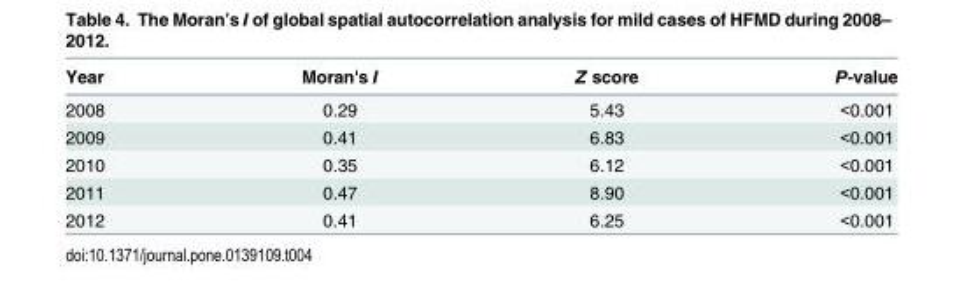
<table><thead><tr><td>Year</td><td>Moran&#x27;s I</td><td>Z score</td><td>P-value</td></tr></thead><tbody><tr><td>2008</td><td>0.29</td><td>5.43</td><td>&lt;0.001</td></tr><tr><td>2009</td><td>0.41</td><td>6.83</td><td>&lt;0.001</td></tr><tr><td>2010</td><td>0.35</td><td>6.12</td><td>&lt;0.001</td></tr><tr><td>2011</td><td>0.47</td><td>8.90</td><td>&lt;0.001</td></tr><tr><td>2012</td><td>0.41</td><td>6.25</td><td>&lt;0.001</td></tr></tbody></table>